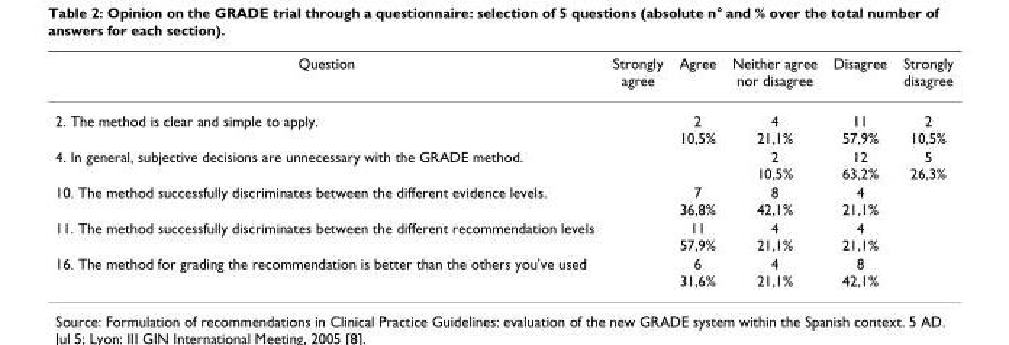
<table><thead><tr><td>Question</td><td>Strongly agree</td><td>Agree</td><td>Neither agree nor disagree</td><td>Disagree</td><td>Strongly disagree</td></tr></thead><tbody><tr><td>2. The method is clear and simple to apply.</td><td></td><td>2 10,5%</td><td>4 21,1%</td><td>11 57,9%</td><td>2 10,5%</td></tr><tr><td>4. In general, subjective decisions are unnecessary with the GRADE method.</td><td></td><td></td><td>2 10,5%</td><td>12 63,2%</td><td>5 26,3%</td></tr><tr><td>10. The method successfully discriminates between the different evidence levels.</td><td></td><td>7 36,8%</td><td>8 42,1%</td><td>4 21,1%</td><td></td></tr><tr><td>11. The method successfully discriminates between the different recommendation levels</td><td></td><td>11 57,9%</td><td>4 21,1%</td><td>4 21,1%</td><td></td></tr><tr><td>16. The method for grading the recommendation is better than the others you&#x27;ve used</td><td></td><td>6 31,6%</td><td>4 21,1%</td><td>8 42,1%</td><td></td></tr></tbody></table>